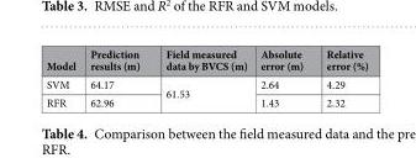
<table><thead><tr><td>Model</td><td>Prediction results (m)</td><td>Field measured data by BVCS (m)</td><td>Absolute error (m)</td><td>Relative error (%)</td></tr></thead><tbody><tr><td>SVM</td><td>64.17</td><td rowspan="2">61.53</td><td>2.64</td><td>4.29</td></tr><tr><td>RFR</td><td>62.96</td><td>1.43</td><td>2.32</td></tr></tbody></table>